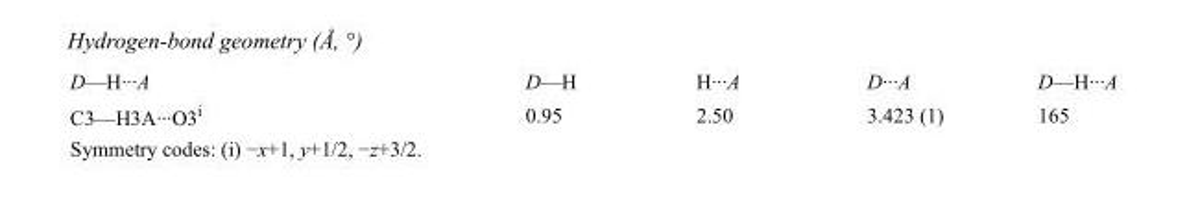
<table><tbody><tr><td>D—H···A</td><td>D—H</td><td>H···A</td><td>D···A</td><td>D—H···A</td></tr><tr><td>C3—H3A···O3<sup>i</sup></td><td>0.95</td><td>2.50</td><td>3.423 (1)</td><td>165</td></tr></tbody></table>